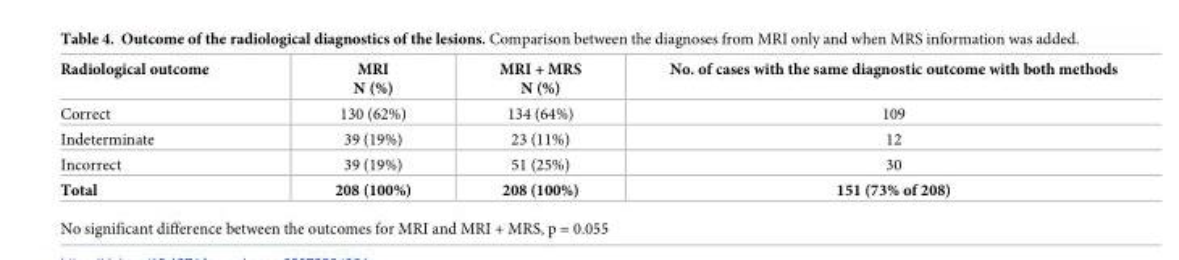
<table><thead><tr><td>Radiological outcome</td><td>MRI N (%)</td><td>MRI + MRS N (%)</td><td>No. of cases with the same diagnostic outcome with both methods</td></tr></thead><tbody><tr><td>Correct</td><td>130 (62%)</td><td>134 (64%)</td><td>109</td></tr><tr><td>Indeterminate</td><td>39 (19%)</td><td>23 (11%)</td><td>12</td></tr><tr><td>Incorrect</td><td>39 (19%)</td><td>51 (25%)</td><td>30</td></tr><tr><td>Total</td><td>208 (100%)</td><td>208 (100%)</td><td>151 (73% of 208)</td></tr></tbody></table>